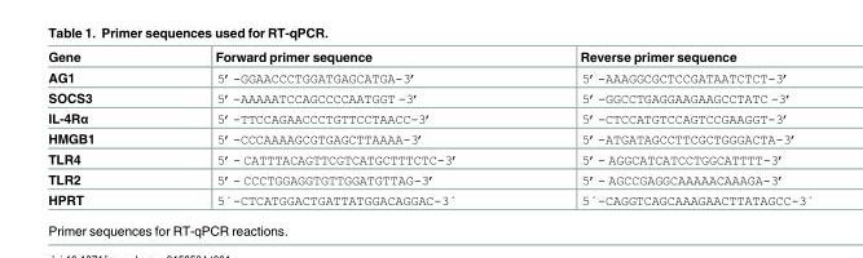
<table><thead><tr><td>Gene</td><td>Forward primer sequence</td><td>Reverse primer sequence</td></tr></thead><tbody><tr><td>AG1</td><td>5’-GGAACCCTGGATGAGCATGA-3’</td><td>5’-AAAGGCGCTCCGATAATCTCT-3’</td></tr><tr><td>SOCS3</td><td>5’-AAAAATCCAGCCCCAATGGT -3’</td><td>5’-GGCCTGAGGAAGAAGCCTATC -3’</td></tr><tr><td>IL-4Rα</td><td>5’-TTCCAGAACCCTGTTCCTAACC-3’</td><td>5’-CTCCATGTCCAGTCCGAAGGT-3’</td></tr><tr><td>HMGB1</td><td>5’-CCCAAAAGCGTGAGCTTAAAA-3’</td><td>5’-ATGATAGCCTTCGCTGGGACTA-3’</td></tr><tr><td>TLR4</td><td>5’- CATTTACAGTTCGTCATGCTTTCTC-3’</td><td>5’- AGGCATCATCCTGGCATTTT-3’</td></tr><tr><td>TLR2</td><td>5’- CCCTGGAGGTGTTGGATGTTAG-3’</td><td>5’- AGCCGAGGCAAAAACAAAGA-3’</td></tr><tr><td>HPRT</td><td>5´-CTCATGGACTGATTATGGACAGGAC-3´</td><td>5´-CAGGTCAGCAAAGAACTTATAGCC-3´</td></tr></tbody></table>